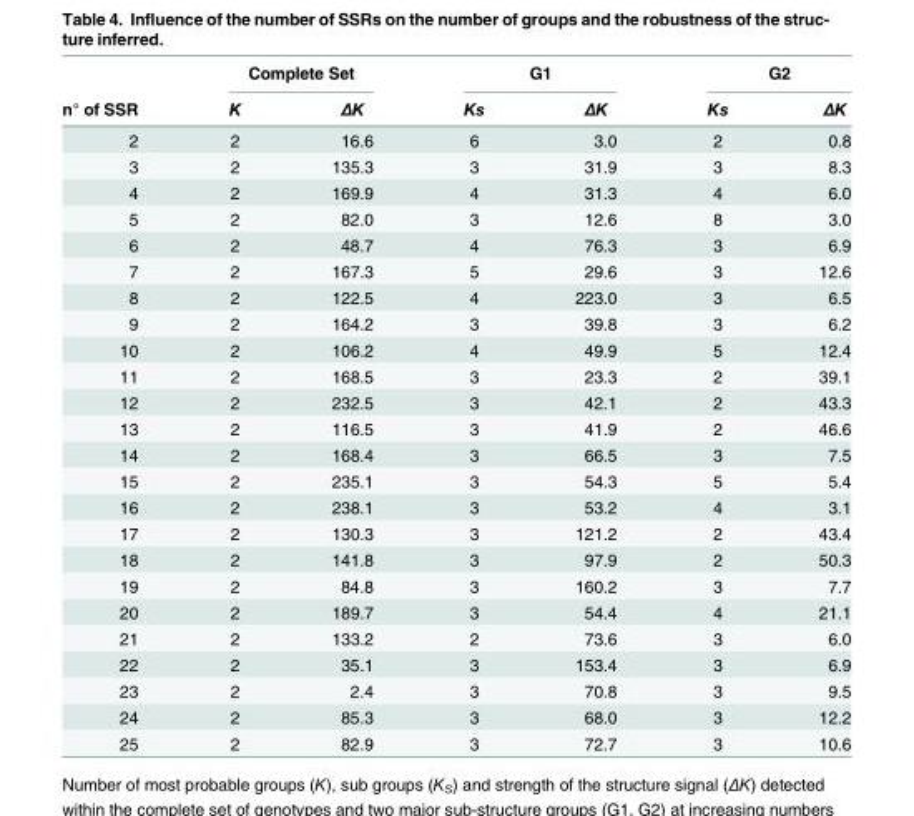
<table><thead><tr><td rowspan="2">n° of SSR</td><td colspan="2">Complete Set</td><td colspan="2">G1</td><td colspan="2">G2</td></tr><tr><td>K</td><td>ΔK</td><td>Ks</td><td>ΔK</td><td>Ks</td><td>ΔK</td></tr></thead><tbody><tr><td>2</td><td>2</td><td>16.6</td><td>6</td><td>3.0</td><td>2</td><td>0.8</td></tr><tr><td>3</td><td>2</td><td>135.3</td><td>3</td><td>31.9</td><td>3</td><td>8.3</td></tr><tr><td>4</td><td>2</td><td>169.9</td><td>4</td><td>31.3</td><td>4</td><td>6.0</td></tr><tr><td>5</td><td>2</td><td>82.0</td><td>3</td><td>12.6</td><td>8</td><td>3.0</td></tr><tr><td>6</td><td>2</td><td>48.7</td><td>4</td><td>76.3</td><td>3</td><td>6.9</td></tr><tr><td>7</td><td>2</td><td>167.3</td><td>5</td><td>29.6</td><td>3</td><td>12.6</td></tr><tr><td>8</td><td>2</td><td>122.5</td><td>4</td><td>223.0</td><td>3</td><td>6.5</td></tr><tr><td>9</td><td>2</td><td>164.2</td><td>3</td><td>39.8</td><td>3</td><td>6.2</td></tr><tr><td>10</td><td>2</td><td>106.2</td><td>4</td><td>49.9</td><td>5</td><td>12.4</td></tr><tr><td>11</td><td>2</td><td>168.5</td><td>3</td><td>23.3</td><td>2</td><td>39.1</td></tr><tr><td>12</td><td>2</td><td>232.5</td><td>3</td><td>42.1</td><td>2</td><td>43.3</td></tr><tr><td>13</td><td>2</td><td>116.5</td><td>3</td><td>41.9</td><td>2</td><td>46.6</td></tr><tr><td>14</td><td>2</td><td>168.4</td><td>3</td><td>66.5</td><td>3</td><td>7.5</td></tr><tr><td>15</td><td>2</td><td>235.1</td><td>3</td><td>54.3</td><td>5</td><td>5.4</td></tr><tr><td>16</td><td>2</td><td>238.1</td><td>3</td><td>53.2</td><td>4</td><td>3.1</td></tr><tr><td>17</td><td>2</td><td>130.3</td><td>3</td><td>121.2</td><td>2</td><td>43.4</td></tr><tr><td>18</td><td>2</td><td>141.8</td><td>3</td><td>97.9</td><td>2</td><td>50.3</td></tr><tr><td>19</td><td>2</td><td>84.8</td><td>3</td><td>160.2</td><td>3</td><td>7.7</td></tr><tr><td>20</td><td>2</td><td>189.7</td><td>3</td><td>54.4</td><td>4</td><td>21.1</td></tr><tr><td>21</td><td>2</td><td>133.2</td><td>2</td><td>73.6</td><td>3</td><td>6.0</td></tr><tr><td>22</td><td>2</td><td>35.1</td><td>3</td><td>153.4</td><td>3</td><td>6.9</td></tr><tr><td>23</td><td>2</td><td>2.4</td><td>3</td><td>70.8</td><td>3</td><td>9.5</td></tr><tr><td>24</td><td>2</td><td>85.3</td><td>3</td><td>68.0</td><td>3</td><td>12.2</td></tr><tr><td>25</td><td>2</td><td>82.9</td><td>3</td><td>72.7</td><td>3</td><td>10.6</td></tr></tbody></table>